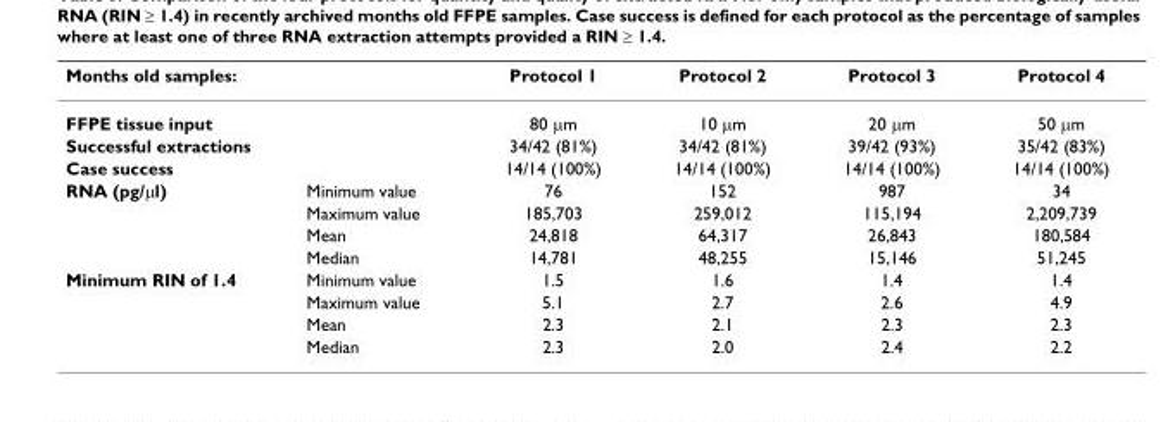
<table><thead><tr><td>Months old samples:</td><td></td><td>Protocol 1</td><td>Protocol 2</td><td>Protocol 3</td><td>Protocol 4</td></tr></thead><tbody><tr><td>FFPE tissue input</td><td></td><td>80 μm</td><td>10 μm</td><td>20 μm</td><td>50 μm</td></tr><tr><td>Successful extractions</td><td></td><td>34/42 (81%)</td><td>34/42 (81%)</td><td>39/42 (93%)</td><td>35/42 (83%)</td></tr><tr><td>Case success</td><td></td><td>14/14 (100%)</td><td>14/14 (100%)</td><td>14/14 (100%)</td><td>14/14 (100%)</td></tr><tr><td rowspan="4">RNA (pg/μl)</td><td>Minimum value</td><td>76</td><td>152</td><td>987</td><td>34</td></tr><tr><td>Maximum value</td><td>185,703</td><td>259,012</td><td>115,194</td><td>2,209,739</td></tr><tr><td>Mean</td><td>24,818</td><td>64,317</td><td>26,843</td><td>180,584</td></tr><tr><td>Median</td><td>14,781</td><td>48,255</td><td>15,146</td><td>51,245</td></tr><tr><td rowspan="4">Minimum RIN of 1.4</td><td>Minimum value</td><td>1.5</td><td>1.6</td><td>1.4</td><td>1.4</td></tr><tr><td>Maximum value</td><td>5.1</td><td>2.7</td><td>2.6</td><td>4.9</td></tr><tr><td>Mean</td><td>2.3</td><td>2.1</td><td>2.3</td><td>2.3</td></tr><tr><td>Median</td><td>2.3</td><td>2.0</td><td>2.4</td><td>2.2</td></tr></tbody></table>